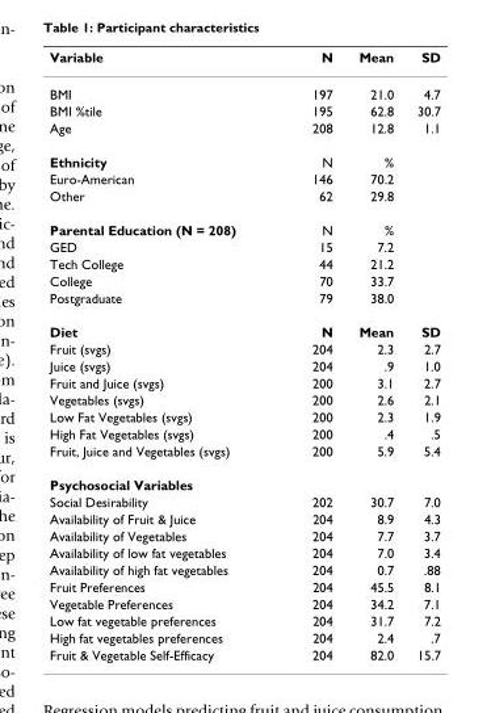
<table><thead><tr><td>Variable</td><td>N</td><td>Mean</td><td>SD</td></tr></thead><tbody><tr><td>BMI</td><td>197</td><td>21.0</td><td>4.7</td></tr><tr><td>BMI %tile</td><td>195</td><td>62.8</td><td>30.7</td></tr><tr><td>Age</td><td>208</td><td>12.8</td><td>1.1</td></tr><tr><td>Ethnicity</td><td>N</td><td>%</td><td></td></tr><tr><td>Euro-American</td><td>146</td><td>70.2</td><td></td></tr><tr><td>Other</td><td>62</td><td>29.8</td><td></td></tr><tr><td>Parental Education (N = 208)</td><td>N</td><td>%</td><td></td></tr><tr><td>GED</td><td>15</td><td>7.2</td><td></td></tr><tr><td>Tech College</td><td>44</td><td>21.2</td><td></td></tr><tr><td>College</td><td>70</td><td>33.7</td><td></td></tr><tr><td>Postgraduate</td><td>79</td><td>38.0</td><td></td></tr><tr><td>Diet</td><td>N</td><td>Mean</td><td>SD</td></tr><tr><td>Fruit (svgs)</td><td>204</td><td>2.3</td><td>2.7</td></tr><tr><td>Juice (svgs)</td><td>204</td><td>.9</td><td>1.0</td></tr><tr><td>Fruit and Juice (svgs)</td><td>200</td><td>3.1</td><td>2.7</td></tr><tr><td>Vegetables (svgs)</td><td>200</td><td>2.6</td><td>2.1</td></tr><tr><td>Low Fat Vegetables (svgs)</td><td>200</td><td>2.3</td><td>1.9</td></tr><tr><td>High Fat Vegetables (svgs)</td><td>200</td><td>.4</td><td>.5</td></tr><tr><td>Fruit, Juice and Vegetables (svgs)</td><td>200</td><td>5.9</td><td>5.4</td></tr><tr><td colspan="4">Psychosocial Variables</td></tr><tr><td>Social Desirability</td><td>202</td><td>30.7</td><td>7.0</td></tr><tr><td>Availability of Fruit &amp; Juice</td><td>204</td><td>8.9</td><td>4.3</td></tr><tr><td>Availability of Vegetables</td><td>204</td><td>7.7</td><td>3.7</td></tr><tr><td>Availability of low fat vegetables</td><td>204</td><td>7.0</td><td>3.4</td></tr><tr><td>Availability of high fat vegetables</td><td>204</td><td>0.7</td><td>.88</td></tr><tr><td>Fruit Preferences</td><td>204</td><td>45.5</td><td>8.1</td></tr><tr><td>Vegetable Preferences</td><td>204</td><td>34.2</td><td>7.1</td></tr><tr><td>Low fat vegetable preferences</td><td>204</td><td>31.7</td><td>7.2</td></tr><tr><td>High fat vegetables preferences</td><td>204</td><td>2.4</td><td>.7</td></tr><tr><td>Fruit &amp; Vegetable Self-Efficacy</td><td>204</td><td>82.0</td><td>15.7</td></tr></tbody></table>